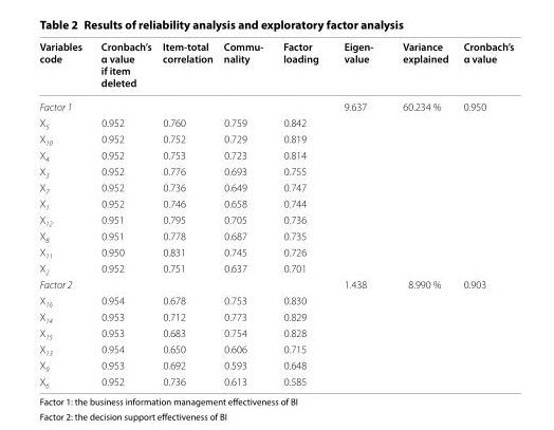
<table><thead><tr><td>Variables code</td><td>Cronbach’s α value if item deleted</td><td>Item-total correlation</td><td>Commu- nality</td><td>Factor loading</td><td>Eigen- value</td><td>Variance explained</td><td>Cronbach’s α value</td></tr></thead><tbody><tr><td colspan="5">Factor 1</td><td>9.637</td><td>60.234 %</td><td>0.950</td></tr><tr><td>X<sub>5</sub></td><td>0.952</td><td>0.760</td><td>0.759</td><td>0.842</td><td></td><td></td><td></td></tr><tr><td>X<sub>10</sub></td><td>0.952</td><td>0.752</td><td>0.729</td><td>0.819</td><td></td><td></td><td></td></tr><tr><td>X<sub>4</sub></td><td>0.952</td><td>0.753</td><td>0.723</td><td>0.814</td><td></td><td></td><td></td></tr><tr><td>X<sub>3</sub></td><td>0.952</td><td>0.776</td><td>0.693</td><td>0.755</td><td></td><td></td><td></td></tr><tr><td>X<sub>7</sub></td><td>0.952</td><td>0.736</td><td>0.649</td><td>0.747</td><td></td><td></td><td></td></tr><tr><td>X<sub>1</sub></td><td>0.952</td><td>0.746</td><td>0.658</td><td>0.744</td><td></td><td></td><td></td></tr><tr><td>X<sub>12</sub></td><td>0.951</td><td>0.795</td><td>0.705</td><td>0.736</td><td></td><td></td><td></td></tr><tr><td>X<sub>8</sub></td><td>0.951</td><td>0.778</td><td>0.687</td><td>0.735</td><td></td><td></td><td></td></tr><tr><td>X<sub>11</sub></td><td>0.950</td><td>0.831</td><td>0.745</td><td>0.726</td><td></td><td></td><td></td></tr><tr><td>X<sub>2</sub></td><td>0.952</td><td>0.751</td><td>0.637</td><td>0.701</td><td></td><td></td><td></td></tr><tr><td colspan="5">Factor 2</td><td>1.438</td><td>8.990 %</td><td>0.903</td></tr><tr><td>X<sub>16</sub></td><td>0.954</td><td>0.678</td><td>0.753</td><td>0.830</td><td></td><td></td><td></td></tr><tr><td>X<sub>14</sub></td><td>0.953</td><td>0.712</td><td>0.773</td><td>0.829</td><td></td><td></td><td></td></tr><tr><td>X<sub>15</sub></td><td>0.953</td><td>0.683</td><td>0.754</td><td>0.828</td><td></td><td></td><td></td></tr><tr><td>X<sub>13</sub></td><td>0.954</td><td>0.650</td><td>0.606</td><td>0.715</td><td></td><td></td><td></td></tr><tr><td>X<sub>9</sub></td><td>0.953</td><td>0.692</td><td>0.593</td><td>0.648</td><td></td><td></td><td></td></tr><tr><td>X<sub>6</sub></td><td>0.952</td><td>0.736</td><td>0.613</td><td>0.585</td><td></td><td></td><td></td></tr></tbody></table>